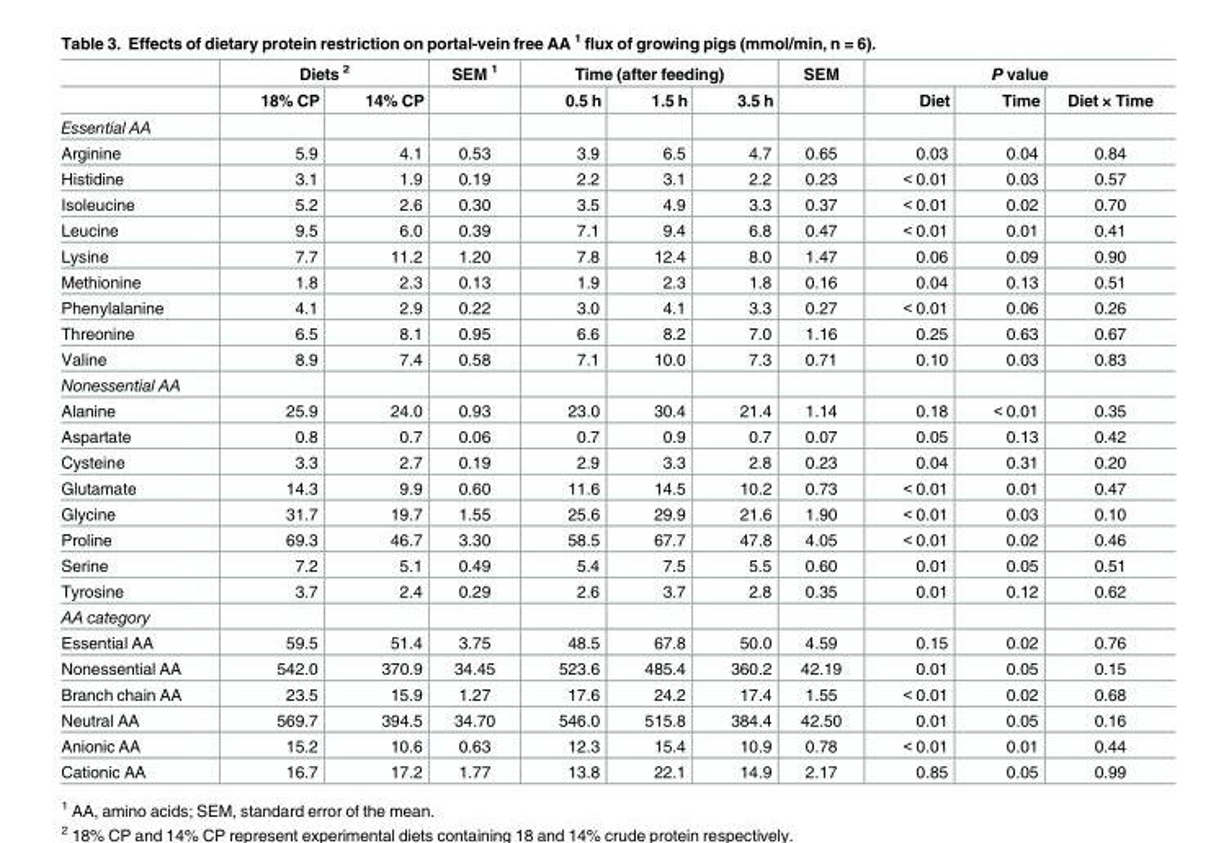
<table><thead><tr><td rowspan="2"></td><td colspan="2">Diets <sup>2</sup></td><td rowspan="2">SEM <sup>1</sup></td><td colspan="3">Time (after feeding)</td><td rowspan="2">SEM</td><td colspan="3">P value</td></tr><tr><td>18% CP</td><td>14% CP</td><td>0.5 h</td><td>1.5 h</td><td>3.5 h</td><td>Diet</td><td>Time</td><td>Diet × Time</td></tr></thead><tbody><tr><td colspan="11">Essential AA</td></tr><tr><td>Arginine</td><td>5.9</td><td>4.1</td><td>0.53</td><td>3.9</td><td>6.5</td><td>4.7</td><td>0.65</td><td>0.03</td><td>0.04</td><td>0.84</td></tr><tr><td>Histidine</td><td>3.1</td><td>1.9</td><td>0.19</td><td>2.2</td><td>3.1</td><td>2.2</td><td>0.23</td><td>&lt; 0.01</td><td>0.03</td><td>0.57</td></tr><tr><td>Isoleucine</td><td>5.2</td><td>2.6</td><td>0.30</td><td>3.5</td><td>4.9</td><td>3.3</td><td>0.37</td><td>&lt; 0.01</td><td>0.02</td><td>0.70</td></tr><tr><td>Leucine</td><td>9.5</td><td>6.0</td><td>0.39</td><td>7.1</td><td>9.4</td><td>6.8</td><td>0.47</td><td>&lt; 0.01</td><td>0.01</td><td>0.41</td></tr><tr><td>Lysine</td><td>7.7</td><td>11.2</td><td>1.20</td><td>7.8</td><td>12.4</td><td>8.0</td><td>1.47</td><td>0.06</td><td>0.09</td><td>0.90</td></tr><tr><td>Methionine</td><td>1.8</td><td>2.3</td><td>0.13</td><td>1.9</td><td>2.3</td><td>1.8</td><td>0.16</td><td>0.04</td><td>0.13</td><td>0.51</td></tr><tr><td>Phenylalanine</td><td>4.1</td><td>2.9</td><td>0.22</td><td>3.0</td><td>4.1</td><td>3.3</td><td>0.27</td><td>&lt; 0.01</td><td>0.06</td><td>0.26</td></tr><tr><td>Threonine</td><td>6.5</td><td>8.1</td><td>0.95</td><td>6.6</td><td>8.2</td><td>7.0</td><td>1.16</td><td>0.25</td><td>0.63</td><td>0.67</td></tr><tr><td>Valine</td><td>8.9</td><td>7.4</td><td>0.58</td><td>7.1</td><td>10.0</td><td>7.3</td><td>0.71</td><td>0.10</td><td>0.03</td><td>0.83</td></tr><tr><td colspan="11">Nonessential AA</td></tr><tr><td>Alanine</td><td>25.9</td><td>24.0</td><td>0.93</td><td>23.0</td><td>30.4</td><td>21.4</td><td>1.14</td><td>0.18</td><td>&lt; 0.01</td><td>0.35</td></tr><tr><td>Aspartate</td><td>0.8</td><td>0.7</td><td>0.06</td><td>0.7</td><td>0.9</td><td>0.7</td><td>0.07</td><td>0.05</td><td>0.13</td><td>0.42</td></tr><tr><td>Cysteine</td><td>3.3</td><td>2.7</td><td>0.19</td><td>2.9</td><td>3.3</td><td>2.8</td><td>0.23</td><td>0.04</td><td>0.31</td><td>0.20</td></tr><tr><td>Glutamate</td><td>14.3</td><td>9.9</td><td>0.60</td><td>11.6</td><td>14.5</td><td>10.2</td><td>0.73</td><td>&lt; 0.01</td><td>0.01</td><td>0.47</td></tr><tr><td>Glycine</td><td>31.7</td><td>19.7</td><td>1.55</td><td>25.6</td><td>29.9</td><td>21.6</td><td>1.90</td><td>&lt; 0.01</td><td>0.03</td><td>0.10</td></tr><tr><td>Proline</td><td>69.3</td><td>46.7</td><td>3.30</td><td>58.5</td><td>67.7</td><td>47.8</td><td>4.05</td><td>&lt; 0.01</td><td>0.02</td><td>0.46</td></tr><tr><td>Serine</td><td>7.2</td><td>5.1</td><td>0.49</td><td>5.4</td><td>7.5</td><td>5.5</td><td>0.60</td><td>0.01</td><td>0.05</td><td>0.51</td></tr><tr><td>Tyrosine</td><td>3.7</td><td>2.4</td><td>0.29</td><td>2.6</td><td>3.7</td><td>2.8</td><td>0.35</td><td>0.01</td><td>0.12</td><td>0.62</td></tr><tr><td colspan="11">AA category</td></tr><tr><td>Essential AA</td><td>59.5</td><td>51.4</td><td>3.75</td><td>48.5</td><td>67.8</td><td>50.0</td><td>4.59</td><td>0.15</td><td>0.02</td><td>0.76</td></tr><tr><td>Nonessential AA</td><td>542.0</td><td>370.9</td><td>34.45</td><td>523.6</td><td>485.4</td><td>360.2</td><td>42.19</td><td>0.01</td><td>0.05</td><td>0.15</td></tr><tr><td>Branch chain AA</td><td>23.5</td><td>15.9</td><td>1.27</td><td>17.6</td><td>24.2</td><td>17.4</td><td>1.55</td><td>&lt; 0.01</td><td>0.02</td><td>0.68</td></tr><tr><td>Neutral AA</td><td>569.7</td><td>394.5</td><td>34.70</td><td>546.0</td><td>515.8</td><td>384.4</td><td>42.50</td><td>0.01</td><td>0.05</td><td>0.16</td></tr><tr><td>Anionic AA</td><td>15.2</td><td>10.6</td><td>0.63</td><td>12.3</td><td>15.4</td><td>10.9</td><td>0.78</td><td>&lt; 0.01</td><td>0.01</td><td>0.44</td></tr><tr><td>Cationic AA</td><td>16.7</td><td>17.2</td><td>1.77</td><td>13.8</td><td>22.1</td><td>14.9</td><td>2.17</td><td>0.85</td><td>0.05</td><td>0.99</td></tr></tbody></table>